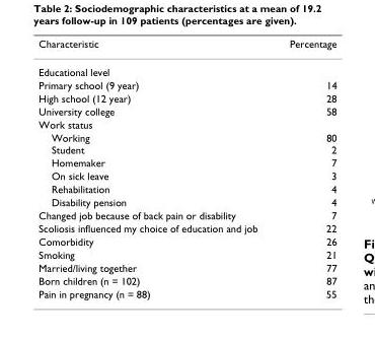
<table><thead><tr><td>Characteristic</td><td>Percentage</td></tr></thead><tbody><tr><td colspan="2">Educational level</td></tr><tr><td>Primary school (9 year)</td><td>14</td></tr><tr><td>High school (12 year)</td><td>28</td></tr><tr><td>University college</td><td>58</td></tr><tr><td colspan="2">Work status</td></tr><tr><td>Working Student</td><td>80 2</td></tr><tr><td>Homemaker</td><td>7</td></tr><tr><td>On sick leave</td><td>3</td></tr><tr><td>Rehabilitation</td><td>4</td></tr><tr><td>Disability pension</td><td>4</td></tr><tr><td>Changed job because of back pain or disability</td><td>7</td></tr><tr><td>Scoliosis influenced my choice of education and job</td><td>22</td></tr><tr><td>Comorbidity</td><td>26</td></tr><tr><td>Smoking</td><td>21</td></tr><tr><td>Married/living together</td><td>77</td></tr><tr><td>Born children (n = 102)</td><td>87</td></tr><tr><td>Pain in pregnancy (n = 88)</td><td>55</td></tr></tbody></table>